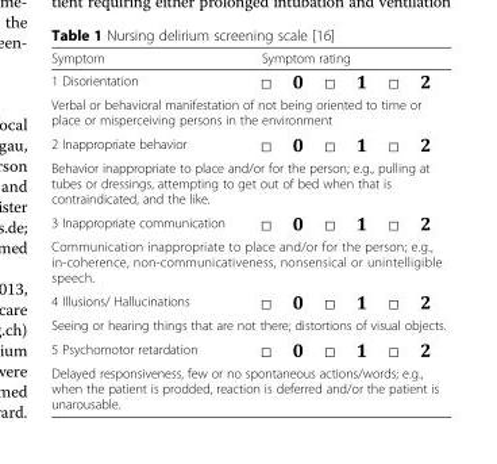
<table><thead><tr><td>Symptom</td><td>Symptom rating</td></tr></thead><tbody><tr><td colspan="2">1 Disorientation</td></tr><tr><td colspan="2">Verbal or behavioral manifestation of not being oriented to time or place or misperceiving persons in the environment</td></tr><tr><td colspan="2">2 Inappropriate behavior</td></tr><tr><td colspan="2">Behavior inappropriate to place and/or for the person; e.g., pulling at tubes or dressings, attempting to get out of bed when that is contraindicated, and the like.</td></tr><tr><td colspan="2">3 Inappropriate communication</td></tr><tr><td colspan="2">Communication inappropriate to place and/or for the person; e.g., in-coherence, non-communicativeness, nonsensical or unintelligible speech.</td></tr><tr><td colspan="2">4 Illusions/ Hallucinations</td></tr><tr><td colspan="2">Seeing or hearing things that are not there; distortions of visual objects.</td></tr><tr><td colspan="2">5 Psychomotor retardation</td></tr><tr><td colspan="2">Delayed responsiveness, few or no spontaneous actions/words; e.g., when the patient is prodded, reaction is deferred and/or the patient is unarousable.</td></tr></tbody></table>